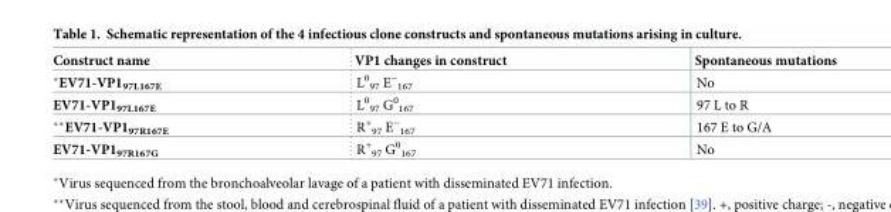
<table><thead><tr><td>Construct name</td><td>VP1 changes in construct</td><td>Spontaneous mutations</td></tr></thead><tbody><tr><td>*EV71-VP1<sub>97L167E</sub></td><td>L<sup>0</sup> <sub>97</sub> E<sup>−</sup> <sub>167</sub></td><td>No</td></tr><tr><td>EV71-VP1<sub>97L167E</sub></td><td>L<sup>0</sup> <sub>97</sub> G<sup>0</sup> <sub>167</sub></td><td>97 L to R</td></tr><tr><td>**EV71-VP1<sub>97R167E</sub></td><td>R<sup>+</sup> <sub>97</sub> E<sup>−</sup> <sub>167</sub></td><td>167 E to G/A</td></tr><tr><td>EV71-VP1<sub>97R167G</sub></td><td>R<sup>+</sup> <sub>97</sub> G<sup>0</sup> <sub>167</sub></td><td>No</td></tr></tbody></table>